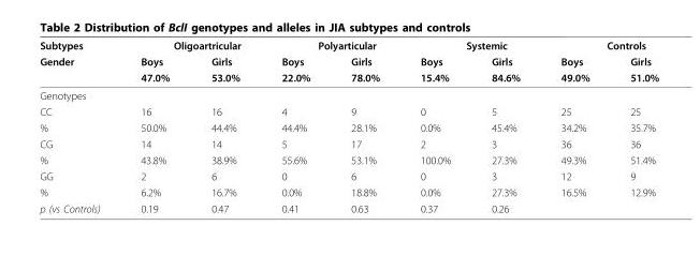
<table><thead><tr><td rowspan="3">Subtypes Gender</td><td colspan="2">Oligoartricular</td><td colspan="2">Polyarticular</td><td colspan="2">Systemic</td><td colspan="2">Controls</td></tr><tr><td rowspan="2">Boys 47.0%</td><td rowspan="2">Girls 53.0%</td><td rowspan="2">Boys 22.0%</td><td rowspan="2">Girls 78.0%</td><td rowspan="2">Boys 15.4%</td><td rowspan="2">Girls 84.6%</td><td rowspan="2">Boys 49.0%</td><td rowspan="2">Girls 51.0%</td></tr><tr></tr></thead><tbody><tr><td colspan="9">Genotypes</td></tr><tr><td>CC</td><td>16</td><td>16</td><td>4</td><td>9</td><td>0</td><td>5</td><td>25</td><td>25</td></tr><tr><td>%</td><td>50.0%</td><td>44.4%</td><td>44.4%</td><td>28.1%</td><td>0.0%</td><td>45.4%</td><td>34.2%</td><td>35.7%</td></tr><tr><td>CG</td><td>14</td><td>14</td><td>5</td><td>17</td><td>2</td><td>3</td><td>36</td><td>36</td></tr><tr><td>%</td><td>43.8%</td><td>38.9%</td><td>55.6%</td><td>53.1%</td><td>100.0%</td><td>27.3%</td><td>49.3%</td><td>51.4%</td></tr><tr><td>GG</td><td>2</td><td>6</td><td>0</td><td>6</td><td>0</td><td>3</td><td>12</td><td>9</td></tr><tr><td>%</td><td>6.2%</td><td>16.7%</td><td>0.0%</td><td>18.8%</td><td>0.0%</td><td>27.3%</td><td>16.5%</td><td>12.9%</td></tr><tr><td>p (vs Controls)</td><td>0.19</td><td>0.47</td><td>0.41</td><td>0.63</td><td>0.37</td><td>0.26</td><td></td><td></td></tr></tbody></table>